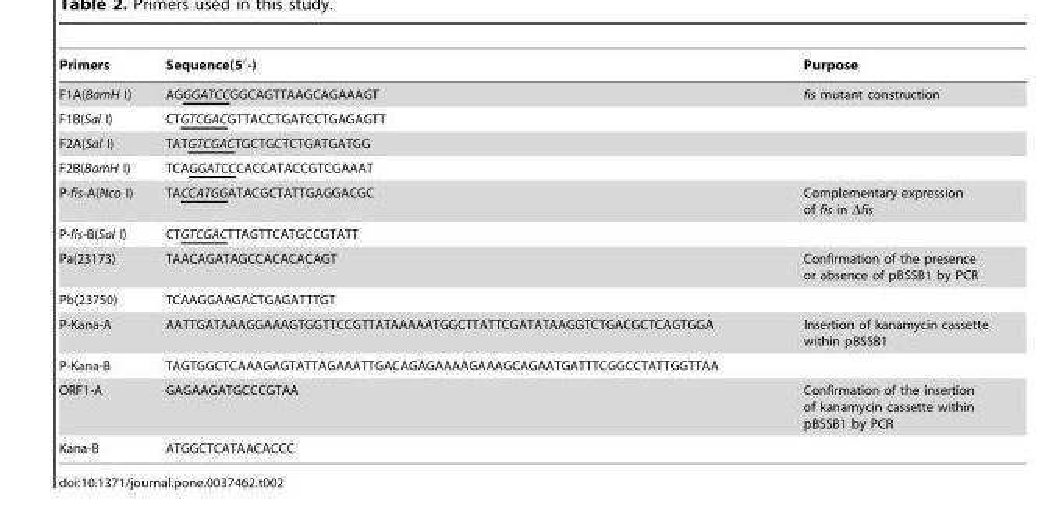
<table><thead><tr><td>Primers</td><td>Sequence(5′-)</td><td>Purpose</td></tr></thead><tbody><tr><td>F1A(BamH I)</td><td>AGGGATCCGGCAGTTAAGCAGAAAGT</td><td>fis mutant construction</td></tr><tr><td>F1B(Sal I)</td><td>CTGTCGACGTTACCTGATCCTGAGAGTT</td><td></td></tr><tr><td>F2A(Sal I)</td><td>TATGTCGACTGCTGCTCTGATGATGG</td><td></td></tr><tr><td>F2B(BamH I)</td><td>TCAGGATCCCACCATACCGTCGAAAT</td><td></td></tr><tr><td>P-fis-A(Nco I)</td><td>TACCATGGATACGCTATTGAGGACGC</td><td>Complementary expression of fis in Δfis</td></tr><tr><td>P-fis-B(Sal I)</td><td>CTGTCGACTTAGTTCATGCCGTATT</td><td></td></tr><tr><td>Pa(23173)</td><td>TAACAGATAGCCACACACAGT</td><td>Confirmation of the presence or absence of pBSSB1 by PCR</td></tr><tr><td>Pb(23750)</td><td>TCAAGGAAGACTGAGATTTGT</td><td></td></tr><tr><td>P-Kana-A</td><td>AATTGATAAAGGAAAGTGGTTCCGTTATAAAAATGGCTTATTCGATATAAGGTCTGACGCTCAGTGGA</td><td>Insertion of kanamycin cassette within pBSSB1</td></tr><tr><td>P-Kana-B</td><td>TAGTGGCTCAAAGAGTATTAGAAATTGACAGAGAAAAGAAAGCAGAATGATTTCGGCCTATTGGTTAA</td><td></td></tr><tr><td>ORF1-A</td><td>GAGAAGATGCCCGTAA</td><td>Confirmation of the insertion of kanamycin cassette within pBSSB1 by PCR</td></tr><tr><td>Kana-B</td><td>ATGGCTCATAACACCC</td><td></td></tr></tbody></table>